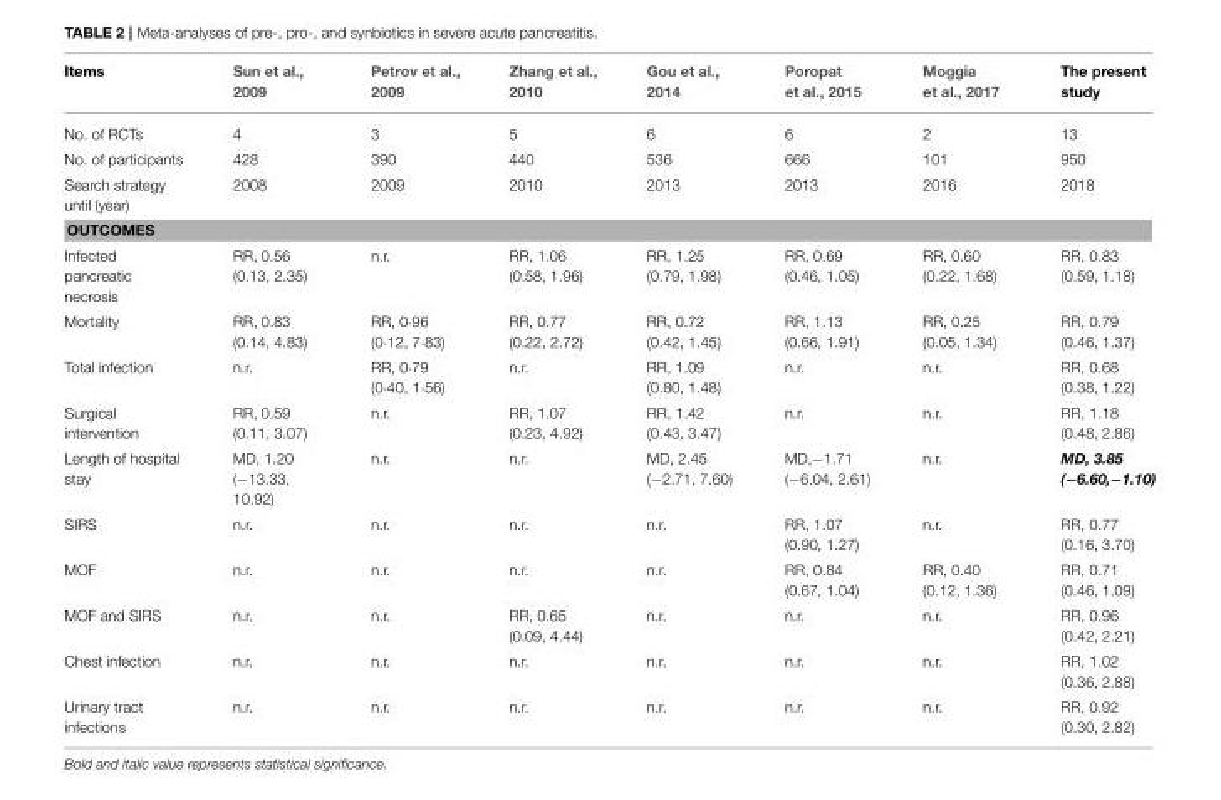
<table><thead><tr><td>Items</td><td>Sun et al., 2009</td><td>Petrov et al., 2009</td><td>Zhang et al., 2010</td><td>Gou et al., 2014</td><td>Poropat et al., 2015</td><td>Moggia et al., 2017</td><td>The present study</td></tr></thead><tbody><tr><td>No. of RCTs</td><td>4</td><td>3</td><td>5</td><td>6</td><td>6</td><td>2</td><td>13</td></tr><tr><td>No. of participants</td><td>428</td><td>390</td><td>440</td><td>536</td><td>666</td><td>101</td><td>950</td></tr><tr><td>Search strategy until (year)</td><td>2008</td><td>2009</td><td>2010</td><td>2013</td><td>2013</td><td>2016</td><td>2018</td></tr><tr><td colspan="8">OUTCOMES</td></tr><tr><td>Infected pancreatic necrosis</td><td>RR, 0.56 (0.13, 2.35)</td><td>n.r.</td><td>RR, 1.06 (0.58, 1.96)</td><td>RR, 1.25 (0.79, 1.98)</td><td>RR, 0.69 (0.46, 1.05)</td><td>RR, 0.60 (0.22, 1.68)</td><td>RR, 0.83 (0.59, 1.18)</td></tr><tr><td>Mortality</td><td>RR, 0.83 (0.14, 4.83)</td><td>RR, 0·96 (0·12, 7·83)</td><td>RR, 0.77 (0.22, 2.72)</td><td>RR, 0.72 (0.42, 1.45)</td><td>RR, 1.13 (0.66, 1.91)</td><td>RR, 0.25 (0.05, 1.34)</td><td>RR, 0.79 (0.46, 1.37)</td></tr><tr><td>Total infection</td><td>n.r.</td><td>RR, 0·79 (0·40, 1·56)</td><td>n.r.</td><td>RR, 1.09 (0.80, 1.48)</td><td>n.r.</td><td>n.r.</td><td>RR, 0.68 (0.38, 1.22)</td></tr><tr><td>Surgical intervention</td><td>RR, 0.59 (0.11, 3.07)</td><td>n.r.</td><td>RR, 1.07 (0.23, 4.92)</td><td>RR, 1.42 (0.43, 3.47)</td><td>n.r.</td><td>n.r.</td><td>RR, 1.18 (0.48, 2.86)</td></tr><tr><td>Length of hospital stay</td><td>MD, 1.20 (−13.33, 10.92)</td><td>n.r.</td><td>n.r.</td><td>MD, 2.45 (−2.71, 7.60)</td><td>MD,−1.71 (−6.04, 2.61)</td><td>n.r.</td><td>MD, 3.85 (−6.60,−1.10)</td></tr><tr><td>SIRS</td><td>n.r.</td><td>n.r.</td><td>n.r.</td><td>n.r.</td><td>RR, 1.07 (0.90, 1.27)</td><td>n.r.</td><td>RR, 0.77 (0.16, 3.70)</td></tr><tr><td>MOF</td><td>n.r.</td><td>n.r.</td><td>n.r.</td><td>n.r.</td><td>RR, 0.84 (0.67, 1.04)</td><td>RR, 0.40 (0.12, 1.36)</td><td>RR, 0.71 (0.46, 1.09)</td></tr><tr><td>MOF and SIRS</td><td>n.r.</td><td>n.r.</td><td>RR, 0.65 (0.09, 4.44)</td><td>n.r.</td><td>n.r.</td><td>n.r.</td><td>RR, 0.96 (0.42, 2.21)</td></tr><tr><td>Chest infection</td><td>n.r.</td><td>n.r.</td><td>n.r.</td><td>n.r.</td><td>n.r.</td><td>n.r.</td><td>RR, 1.02 (0.36, 2.88)</td></tr><tr><td>Urinary tract infections</td><td>n.r.</td><td>n.r.</td><td>n.r.</td><td>n.r.</td><td>n.r.</td><td>n.r.</td><td>RR, 0.92 (0.30, 2.82)</td></tr></tbody></table>